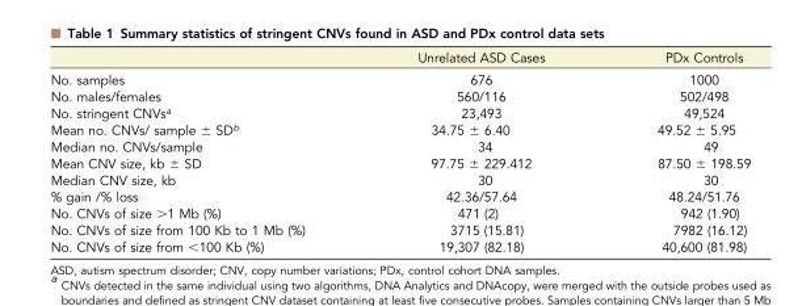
<table><thead><tr><td></td><td>Unrelated ASD Cases</td><td>PDx Controls</td></tr></thead><tbody><tr><td>No. samples</td><td>676</td><td>1000</td></tr><tr><td>No. males/females</td><td>560/116</td><td>502/498</td></tr><tr><td>No. stringent CNVs<sup>a</sup></td><td>23,493</td><td>49,524</td></tr><tr><td>Mean no. CNVs/ sample ± SD<sup>b</sup></td><td>34.75 ± 6.40</td><td>49.52 ± 5.95</td></tr><tr><td>Median no. CNVs/sample</td><td>34</td><td>49</td></tr><tr><td>Mean CNV size, kb ± SD</td><td>97.75 ± 229.412</td><td>87.50 ± 198.59</td></tr><tr><td>Median CNV size, kb</td><td>30</td><td>30</td></tr><tr><td>% gain /% loss</td><td>42.36/57.64</td><td>48.24/51.76</td></tr><tr><td>No. CNVs of size &gt;1 Mb (%)</td><td>471 (2)</td><td>942 (1.90)</td></tr><tr><td>No. CNVs of size from 100 Kb to 1 Mb (%)</td><td>3715 (15.81)</td><td>7982 (16.12)</td></tr><tr><td>No. CNVs of size from &lt;100 Kb (%)</td><td>19,307 (82.18)</td><td>40,600 (81.98)</td></tr></tbody></table>